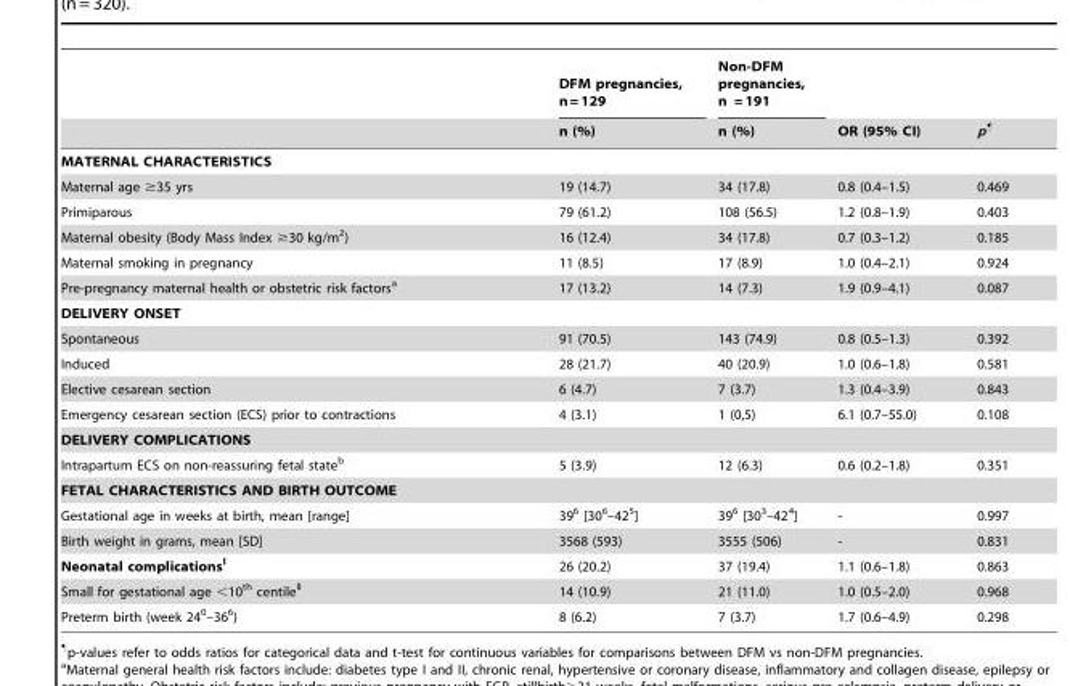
<table><thead><tr><td rowspan="2"></td><td rowspan="2">DFM pregnancies, n = 129 n (%)</td><td rowspan="2">Non-DFM pregnancies, n = 191 n (%)</td><td rowspan="2">OR (95% CI)</td><td rowspan="2">p¶</td></tr><tr></tr></thead><tbody><tr><td colspan="5">MATERNAL CHARACTERISTICS</td></tr><tr><td>Maternal age ≥35 yrs</td><td>19 (14.7)</td><td>34 (17.8)</td><td>0.8 (0.4–1.5)</td><td>0.469</td></tr><tr><td>Primiparous</td><td>79 (61.2)</td><td>108 (56.5)</td><td>1.2 (0.8–1.9)</td><td>0.403</td></tr><tr><td>Maternal obesity (Body Mass Index ≥30 kg/m<sup>2</sup>)</td><td>16 (12.4)</td><td>34 (17.8)</td><td>0.7 (0.3–1.2)</td><td>0.185</td></tr><tr><td>Maternal smoking in pregnancy</td><td>11 (8.5)</td><td>17 (8.9)</td><td>1.0 (0.4–2.1)</td><td>0.924</td></tr><tr><td>Pre-pregnancy maternal health or obstetric risk factors<sup>a</sup></td><td>17 (13.2)</td><td>14 (7.3)</td><td>1.9 (0.9–4.1)</td><td>0.087</td></tr><tr><td colspan="5">DELIVERY ONSET</td></tr><tr><td>Spontaneous</td><td>91 (70.5)</td><td>143 (74.9)</td><td>0.8 (0.5–1.3)</td><td>0.392</td></tr><tr><td>Induced</td><td>28 (21.7)</td><td>40 (20.9)</td><td>1.0 (0.6–1.8)</td><td>0.581</td></tr><tr><td>Elective cesarean section</td><td>6 (4.7)</td><td>7 (3.7)</td><td>1.3 (0.4–3.9)</td><td>0.843</td></tr><tr><td>Emergency cesarean section (ECS) prior to contractions</td><td>4 (3.1)</td><td>1 (0,5)</td><td>6.1 (0.7–55.0)</td><td>0.108</td></tr><tr><td colspan="5">DELIVERY COMPLICATIONS</td></tr><tr><td>Intrapartum ECS on non-reassuring fetal state<sup>b</sup></td><td>5 (3.9)</td><td>12 (6.3)</td><td>0.6 (0.2–1.8)</td><td>0.351</td></tr><tr><td colspan="5">FETAL CHARACTERISTICS AND BIRTH OUTCOME</td></tr><tr><td>Gestational age in weeks at birth, mean [range]</td><td>39<sup>6</sup> [30<sup>6</sup>–42<sup>5</sup>]</td><td>39<sup>6</sup> [30<sup>3</sup>–42<sup>4</sup>]</td><td>-</td><td>0.997</td></tr><tr><td>Birth weight in grams, mean [SD]</td><td>3568 (593)</td><td>3555 (506)</td><td>-</td><td>0.831</td></tr><tr><td>Neonatal complicationsl</td><td>26 (20.2)</td><td>37 (19.4)</td><td>1.1 (0.6–1.8)</td><td>0.863</td></tr><tr><td>Small for gestational age &lt;10<sup>th</sup> centile<sup>ll</sup></td><td>14 (10.9)</td><td>21 (11.0)</td><td>1.0 (0.5–2.0)</td><td>0.968</td></tr><tr><td>Preterm birth (week 24<sup>0</sup>–36<sup>6</sup>)</td><td>8 (6.2)</td><td>7 (3.7)</td><td>1.7 (0.6–4.9)</td><td>0.298</td></tr></tbody></table>